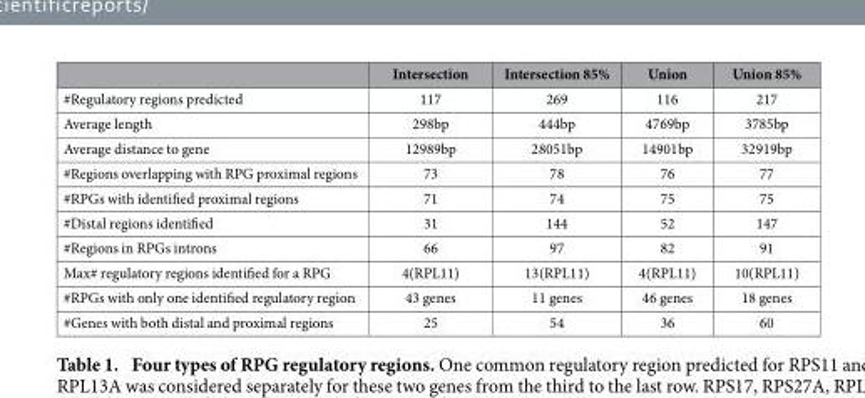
<table><thead><tr><td></td><td>Intersection</td><td>Intersection 85%</td><td>Union</td><td>Union 85%</td></tr></thead><tbody><tr><td>#Regulatory regions predicted</td><td>117</td><td>269</td><td>116</td><td>217</td></tr><tr><td>Average length</td><td>298bp</td><td>444bp</td><td>4769bp</td><td>3785bp</td></tr><tr><td>Average distance to gene</td><td>12989bp</td><td>28051bp</td><td>14901bp</td><td>32919bp</td></tr><tr><td>#Regions overlapping with RPG proximal regions</td><td>73</td><td>78</td><td>76</td><td>77</td></tr><tr><td>#RPGs with identified proximal regions</td><td>71</td><td>74</td><td>75</td><td>75</td></tr><tr><td>#Distal regions identified</td><td>31</td><td>144</td><td>52</td><td>147</td></tr><tr><td>#Regions in RPGs introns</td><td>66</td><td>97</td><td>82</td><td>91</td></tr><tr><td>Max# regulatory regions identified for a RPG</td><td>4(RPL11)</td><td>13(RPL11)</td><td>4(RPL11)</td><td>10(RPL11)</td></tr><tr><td>#RPGs with only one identified regulatory region</td><td>43 genes</td><td>11 genes</td><td>46 genes</td><td>18 genes</td></tr><tr><td>#Genes with both distal and proximal regions</td><td>25</td><td>54</td><td>36</td><td>60</td></tr></tbody></table>